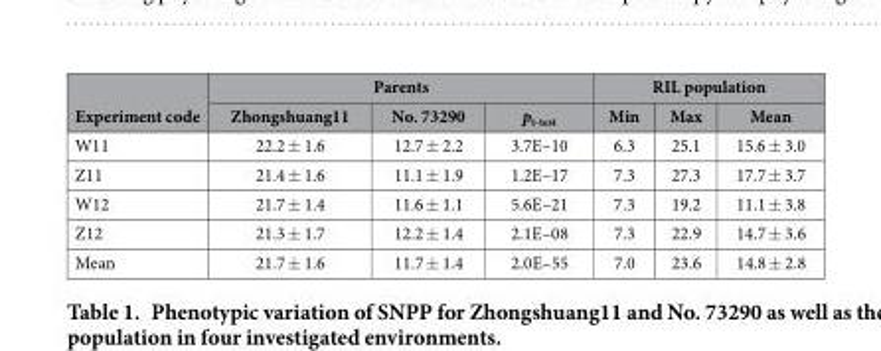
<table><thead><tr><td rowspan="2">Experiment code</td><td colspan="3">Parents</td><td colspan="3">RIL population</td></tr><tr><td>Zhongshuang11</td><td>No. 73290</td><td>p<sub>t-test</sub></td><td>Min</td><td>Max</td><td>Mean</td></tr></thead><tbody><tr><td>W11</td><td>22.2 ± 1.6</td><td>12.7 ± 2.2</td><td>3.7E–10</td><td>6.3</td><td>25.1</td><td>15.6 ± 3.0</td></tr><tr><td>Z11</td><td>21.4 ± 1.6</td><td>11.1 ± 1.9</td><td>1.2E–17</td><td>7.3</td><td>27.3</td><td>17.7 ± 3.7</td></tr><tr><td>W12</td><td>21.7 ± 1.4</td><td>11.6 ± 1.1</td><td>5.6E–21</td><td>7.3</td><td>19.2</td><td>11.1 ± 3.8</td></tr><tr><td>Z12</td><td>21.3 ± 1.7</td><td>12.2 ± 1.4</td><td>2.1E–08</td><td>7.3</td><td>22.9</td><td>14.7 ± 3.6</td></tr><tr><td>Mean</td><td>21.7 ± 1.6</td><td>11.7 ± 1.4</td><td>2.0E–55</td><td>7.0</td><td>23.6</td><td>14.8 ± 2.8</td></tr></tbody></table>